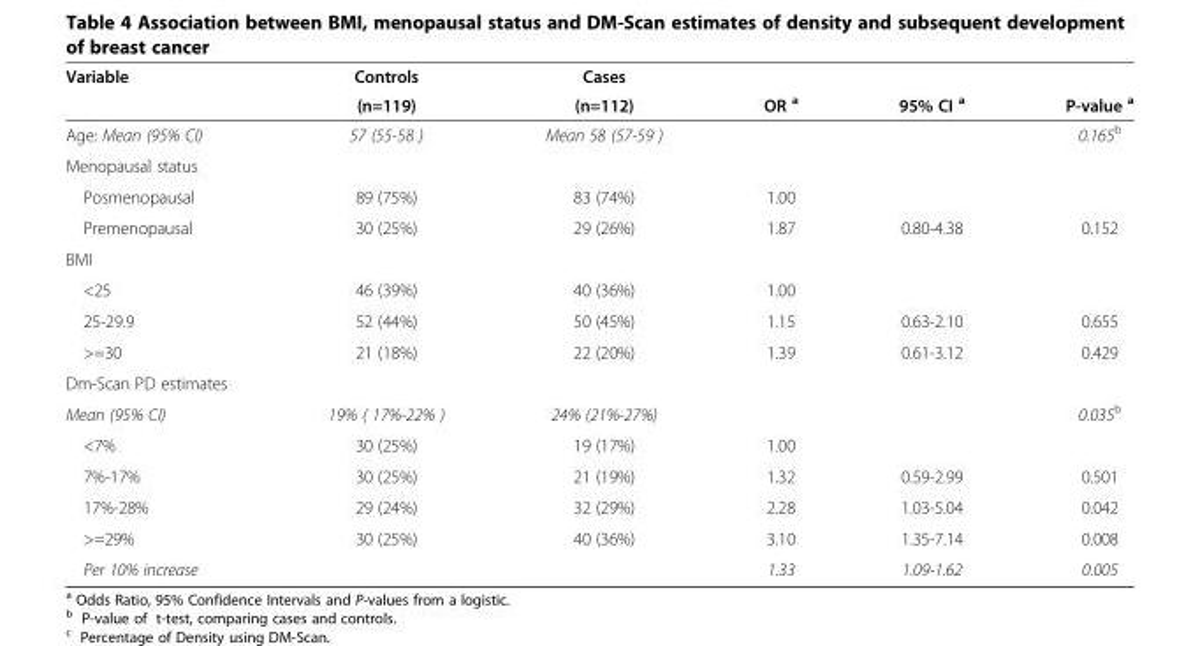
<table><thead><tr><td rowspan="2">Variable</td><td rowspan="2">Controls (n=119)</td><td rowspan="2">Cases (n=112)</td><td rowspan="2">OR <sup>a</sup></td><td rowspan="2">95% CI <sup>a</sup></td><td rowspan="2">P-value <sup>a</sup></td></tr><tr></tr></thead><tbody><tr><td>Age: Mean (95% CI)</td><td>57 (55-58 )</td><td>Mean 58 (57-59 )</td><td></td><td></td><td>0.165<sup>b</sup></td></tr><tr><td colspan="6">Menopausal status</td></tr><tr><td>Posmenopausal</td><td>89 (75%)</td><td>83 (74%)</td><td>1.00</td><td></td><td></td></tr><tr><td>Premenopausal</td><td>30 (25%)</td><td>29 (26%)</td><td>1.87</td><td>0.80-4.38</td><td>0.152</td></tr><tr><td colspan="6">BMI</td></tr><tr><td>&lt;25</td><td>46 (39%)</td><td>40 (36%)</td><td>1.00</td><td></td><td></td></tr><tr><td>25-29.9</td><td>52 (44%)</td><td>50 (45%)</td><td>1.15</td><td>0.63-2.10</td><td>0.655</td></tr><tr><td>&gt;=30</td><td>21 (18%)</td><td>22 (20%)</td><td>1.39</td><td>0.61-3.12</td><td>0.429</td></tr><tr><td colspan="6">Dm-Scan PD estimates</td></tr><tr><td>Mean (95% CI)</td><td>19% ( 17%-22% )</td><td>24% (21%-27%)</td><td></td><td></td><td>0.035<sup>b</sup></td></tr><tr><td>&lt;7%</td><td>30 (25%)</td><td>19 (17%)</td><td>1.00</td><td></td><td></td></tr><tr><td>7%-17%</td><td>30 (25%)</td><td>21 (19%)</td><td>1.32</td><td>0.59-2.99</td><td>0.501</td></tr><tr><td>17%-28%</td><td>29 (24%)</td><td>32 (29%)</td><td>2.28</td><td>1.03-5.04</td><td>0.042</td></tr><tr><td>&gt;=29%</td><td>30 (25%)</td><td>40 (36%)</td><td>3.10</td><td>1.35-7.14</td><td>0.008</td></tr><tr><td>Per 10% increase</td><td></td><td></td><td>1.33</td><td>1.09-1.62</td><td>0.005</td></tr></tbody></table>